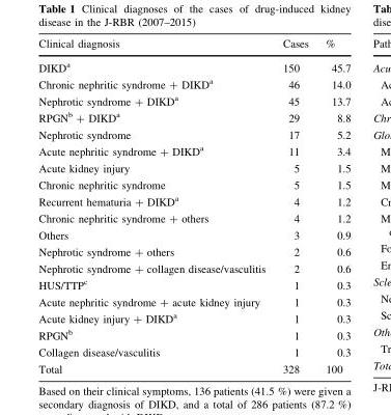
<table><thead><tr><td>Clinical diagnosis</td><td>Cases</td><td>%</td></tr></thead><tbody><tr><td>DIKD<sup>a</sup></td><td>150</td><td>45.7</td></tr><tr><td>Chronic nephritic syndrome + DIKD<sup>a</sup></td><td>46</td><td>14.0</td></tr><tr><td>Nephrotic syndrome + DIKD<sup>a</sup></td><td>45</td><td>13.7</td></tr><tr><td>RPGN<sup>b</sup> + DIKD<sup>a</sup></td><td>29</td><td>8.8</td></tr><tr><td>Nephrotic syndrome</td><td>17</td><td>5.2</td></tr><tr><td>Acute nephritic syndrome + DIKD<sup>a</sup></td><td>11</td><td>3.4</td></tr><tr><td>Acute kidney injury</td><td>5</td><td>1.5</td></tr><tr><td>Chronic nephritic syndrome</td><td>5</td><td>1.5</td></tr><tr><td>Recurrent hematuria + DIKD<sup>a</sup></td><td>4</td><td>1.2</td></tr><tr><td>Chronic nephritic syndrome + others</td><td>4</td><td>1.2</td></tr><tr><td>Others</td><td>3</td><td>0.9</td></tr><tr><td>Nephrotic syndrome + others</td><td>2</td><td>0.6</td></tr><tr><td>Nephrotic syndrome + collagen disease/vasculitis</td><td>2</td><td>0.6</td></tr><tr><td>HUS/TTP<sup>c</sup></td><td>1</td><td>0.3</td></tr><tr><td>Acute nephritic syndrome + acute kidney injury</td><td>1</td><td>0.3</td></tr><tr><td>Acute kidney injury + DIKD<sup>a</sup></td><td>1</td><td>0.3</td></tr><tr><td>RPGN<sup>b</sup></td><td>1</td><td>0.3</td></tr><tr><td>Collagen disease/vasculitis</td><td>1</td><td>0.3</td></tr><tr><td>Total</td><td>328</td><td>100</td></tr></tbody></table>